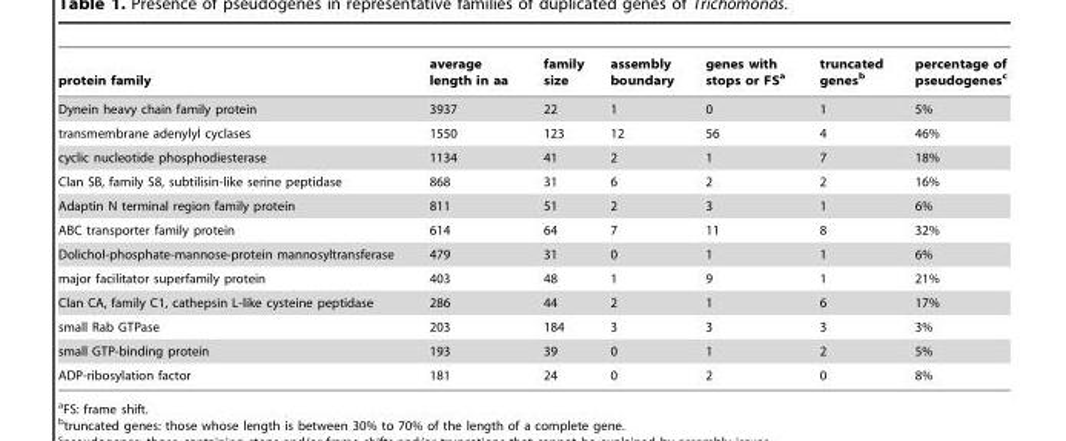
<table><thead><tr><td>protein family</td><td>average length in aa</td><td>family size</td><td>assembly boundary</td><td>genes with stops or FS<sup>a</sup></td><td>truncated genes<sup>b</sup></td><td>percentage of pseudogenes<sup>c</sup></td></tr></thead><tbody><tr><td>Dynein heavy chain family protein</td><td>3937</td><td>22</td><td>1</td><td>0</td><td>1</td><td>5%</td></tr><tr><td>transmembrane adenylyl cyclases</td><td>1550</td><td>123</td><td>12</td><td>56</td><td>4</td><td>46%</td></tr><tr><td>cyclic nucleotide phosphodiesterase</td><td>1134</td><td>41</td><td>2</td><td>1</td><td>7</td><td>18%</td></tr><tr><td>Clan SB, family S8, subtilisin-like serine peptidase</td><td>868</td><td>31</td><td>6</td><td>2</td><td>2</td><td>16%</td></tr><tr><td>Adaptin N terminal region family protein</td><td>811</td><td>51</td><td>2</td><td>3</td><td>1</td><td>6%</td></tr><tr><td>ABC transporter family protein</td><td>614</td><td>64</td><td>7</td><td>11</td><td>8</td><td>32%</td></tr><tr><td>Dolichol-phosphate-mannose-protein mannosyltransferase</td><td>479</td><td>31</td><td>0</td><td>1</td><td>1</td><td>6%</td></tr><tr><td>major facilitator superfamily protein</td><td>403</td><td>48</td><td>1</td><td>9</td><td>1</td><td>21%</td></tr><tr><td>Clan CA, family C1, cathepsin L-like cysteine peptidase</td><td>286</td><td>44</td><td>2</td><td>1</td><td>6</td><td>17%</td></tr><tr><td>small Rab GTPase</td><td>203</td><td>184</td><td>3</td><td>3</td><td>3</td><td>3%</td></tr><tr><td>small GTP-binding protein</td><td>193</td><td>39</td><td>0</td><td>1</td><td>2</td><td>5%</td></tr><tr><td>ADP-ribosylation factor</td><td>181</td><td>24</td><td>0</td><td>2</td><td>0</td><td>8%</td></tr></tbody></table>